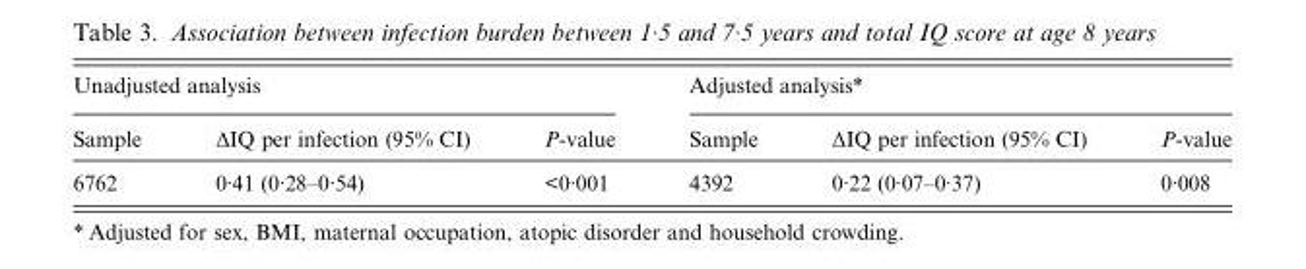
<table><thead><tr><td colspan="3">Unadjusted analysis</td><td colspan="3">Adjusted analysis*</td></tr><tr><td>Sample</td><td>ΔIQ per infection (95% CI)</td><td>P-value</td><td>Sample</td><td>ΔIQ per infection (95% CI)</td><td>P-value</td></tr></thead><tbody><tr><td>6762</td><td>0·41 (0·28–0·54)</td><td>&lt;0·001</td><td>4392</td><td>0·22 (0·07–0·37)</td><td>0·008</td></tr></tbody></table>